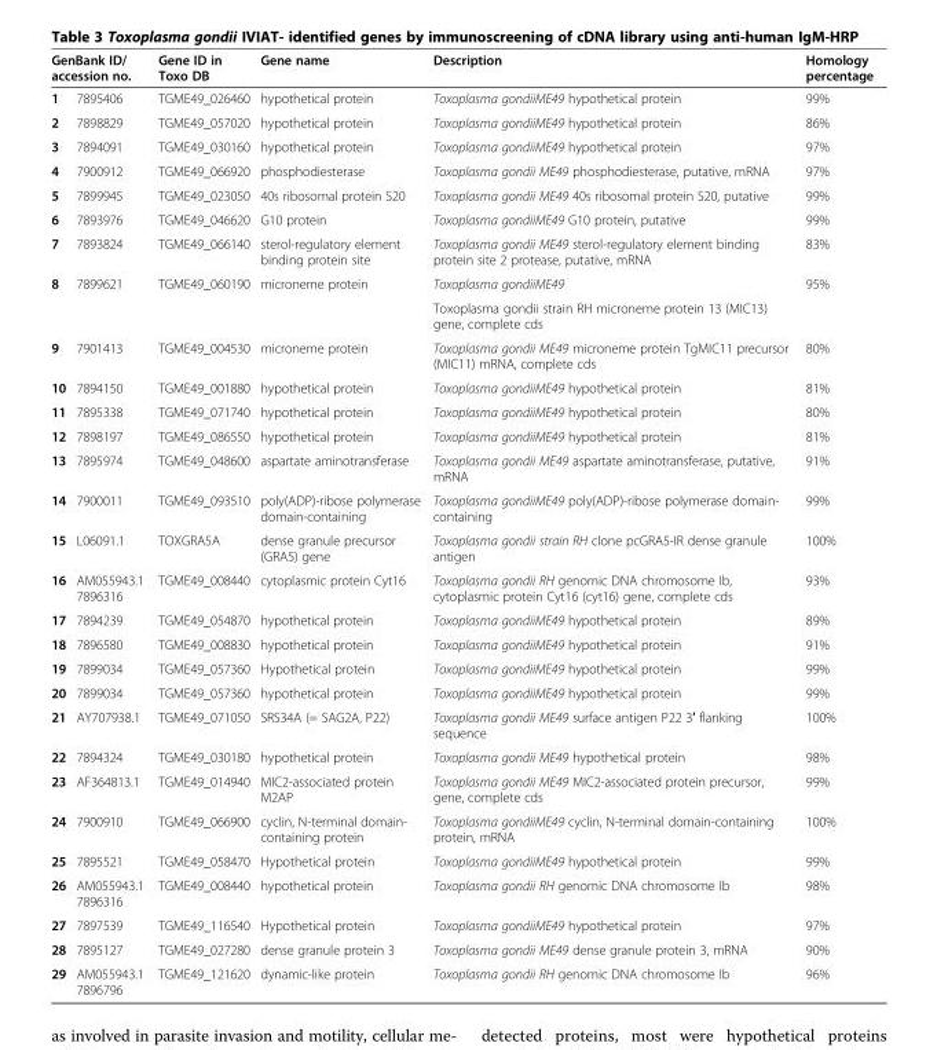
<table><thead><tr><td colspan="2">GenBank ID/ accession no.</td><td rowspan="2">Gene ID in Toxo DB TGME49_026460</td><td rowspan="2">Gene name hypothetical protein</td><td rowspan="2">Description Toxoplasma gondiiME49 hypothetical protein</td><td rowspan="2">Homology percentage 99%</td></tr><tr><td>1</td><td>7895406</td></tr></thead><tbody><tr><td>2</td><td>7898829</td><td>TGME49_057020</td><td>hypothetical protein</td><td>Toxoplasma gondiiME49 hypothetical protein</td><td>86%</td></tr><tr><td>3</td><td>7894091</td><td>TGME49_030160</td><td>hypothetical protein</td><td>Toxoplasma gondiiME49 hypothetical protein</td><td>97%</td></tr><tr><td>4</td><td>7900912</td><td>TGME49_066920</td><td>phosphodiesterase</td><td>Toxoplasma gondii ME49 phosphodiesterase, putative, mRNA</td><td>97%</td></tr><tr><td>5</td><td>7899945</td><td>TGME49_023050</td><td>40s ribosomal protein S20</td><td>Toxoplasma gondii ME49 40s ribosomal protein S20, putative</td><td>99%</td></tr><tr><td>6</td><td>7893976</td><td>TGME49_046620</td><td>G10 protein</td><td>Toxoplasma gondiiME49 G10 protein, putative</td><td>99%</td></tr><tr><td>7</td><td>7893824</td><td>TGME49_066140</td><td>sterol-regulatory element binding protein site</td><td>Toxoplasma gondii ME49 sterol-regulatory element binding protein site 2 protease, putative, mRNA</td><td>83%</td></tr><tr><td rowspan="2">8</td><td rowspan="2">7899621</td><td rowspan="2">TGME49_060190</td><td rowspan="2">microneme protein</td><td>Toxoplasma gondiiME49</td><td rowspan="2">95%</td></tr><tr><td>Toxoplasma gondii strain RH microneme protein 13 (MIC13) gene, complete cds</td></tr><tr><td>9</td><td>7901413</td><td>TGME49_004530</td><td>microneme protein</td><td>Toxoplasma gondii ME49 microneme protein TgMIC11 precursor (MIC11) mRNA, complete cds</td><td>80%</td></tr><tr><td>10</td><td>7894150</td><td>TGME49_001880</td><td>hypothetical protein</td><td>Toxoplasma gondiiME49 hypothetical protein</td><td>81%</td></tr><tr><td>11</td><td>7895338</td><td>TGME49_071740</td><td>hypothetical protein</td><td>Toxoplasma gondiiME49 hypothetical protein</td><td>80%</td></tr><tr><td>12</td><td>7898197</td><td>TGME49_086550</td><td>hypothetical protein</td><td>Toxoplasma gondiiME49 hypothetical protein</td><td>81%</td></tr><tr><td>13</td><td>7895974</td><td>TGME49_048600</td><td>aspartate aminotransferase</td><td>Toxoplasma gondii ME49 aspartate aminotransferase, putative, mRNA</td><td>91%</td></tr><tr><td>14</td><td>7900011</td><td>TGME49_093510</td><td>poly(ADP)-ribose polymerase domain-containing</td><td>Toxoplasma gondiiME49 poly(ADP)-ribose polymerase domain- containing</td><td>99%</td></tr><tr><td>15</td><td>L06091.1</td><td>TOXGRA5A</td><td>dense granule precursor (GRA5) gene</td><td>Toxoplasma gondii strain RH clone pcGRA5-IR dense granule antigen</td><td>100%</td></tr><tr><td>16</td><td>AM055943.1 7896316</td><td>TGME49_008440</td><td>cytoplasmic protein Cyt16</td><td>Toxoplasma gondii RH genomic DNA chromosome Ib, cytoplasmic protein Cyt16 (cyt16) gene, complete cds</td><td>93%</td></tr><tr><td>17</td><td>7894239</td><td>TGME49_054870</td><td>hypothetical protein</td><td>Toxoplasma gondiiME49 hypothetical protein</td><td>89%</td></tr><tr><td>18</td><td>7896580</td><td>TGME49_008830</td><td>hypothetical protein</td><td>Toxoplasma gondiiME49 hypothetical protein</td><td>91%</td></tr><tr><td>19</td><td>7899034</td><td>TGME49_057360</td><td>Hypothetical protein</td><td>Toxoplasma gondiiME49 hypothetical protein</td><td>99%</td></tr><tr><td>20</td><td>7899034</td><td>TGME49_057360</td><td>hypothetical protein</td><td>Toxoplasma gondiiME49 hypothetical protein</td><td>99%</td></tr><tr><td>21</td><td>AY707938.1</td><td>TGME49_071050</td><td>SRS34A (= SAG2A, P22)</td><td>Toxoplasma gondii ME49 surface antigen P22 3′ flanking sequence</td><td>100%</td></tr><tr><td>22</td><td>7894324</td><td>TGME49_030180</td><td>hypothetical protein</td><td>Toxoplasma gondii ME49 hypothetical protein</td><td>98%</td></tr><tr><td>23</td><td>AF364813.1</td><td>TGME49_014940</td><td>MIC2-associated protein M2AP</td><td>Toxoplasma gondii ME49 MIC2-associated protein precursor, gene, complete cds</td><td>99%</td></tr><tr><td>24</td><td>7900910</td><td>TGME49_066900</td><td>cyclin, N-terminal domain- containing protein</td><td>Toxoplasma gondiiME49 cyclin, N-terminal domain-containing protein, mRNA</td><td>100%</td></tr><tr><td>25</td><td>7895521</td><td>TGME49_058470</td><td>Hypothetical protein</td><td>Toxoplasma gondiiME49 hypothetical protein</td><td>99%</td></tr><tr><td>26</td><td>AM055943.1 7896316</td><td>TGME49_008440</td><td>hypothetical protein</td><td>Toxoplasma gondii RH genomic DNA chromosome Ib</td><td>98%</td></tr><tr><td>27</td><td>7897539</td><td>TGME49_116540</td><td>Hypothetical protein</td><td>Toxoplasma gondiiME49 hypothetical protein</td><td>97%</td></tr><tr><td>28</td><td>7895127</td><td>TGME49_027280</td><td>dense granule protein 3</td><td>Toxoplasma gondii ME49 dense granule protein 3, mRNA</td><td>90%</td></tr><tr><td>29</td><td>AM055943.1 7896796</td><td>TGME49_121620</td><td>dynamic-like protein</td><td>Toxoplasma gondii RH genomic DNA chromosome Ib</td><td>96%</td></tr></tbody></table>